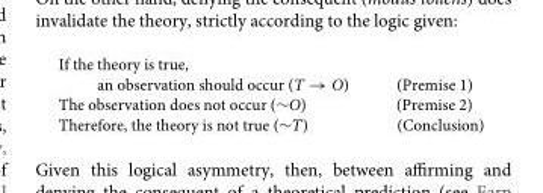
<table><tbody><tr><td colspan="2">If the theory is true,</td></tr><tr><td>an observation should occur (T → O)</td><td>(Premise 1)</td></tr><tr><td>The observation does not occur (∼O)</td><td>(Premise 2)</td></tr><tr><td>Therefore, the theory is not true (∼T)</td><td>(Conclusion)</td></tr></tbody></table>